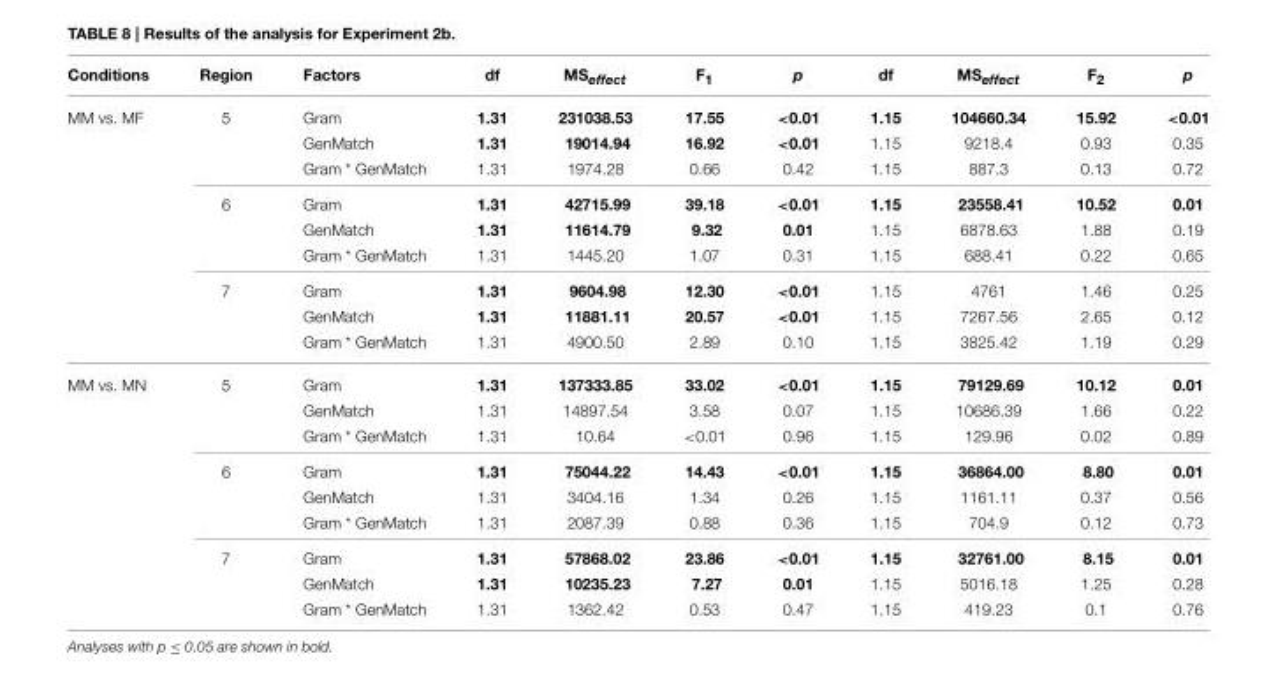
<table><thead><tr><td>Conditions</td><td>Region</td><td>Factors</td><td>df</td><td>MS<sub>effect</sub></td><td>F<sub>1</sub></td><td>p</td><td>df</td><td>MS<sub>effect</sub></td><td>F<sub>2</sub></td><td>p</td></tr></thead><tbody><tr><td rowspan="9">MM vs. MF</td><td>5</td><td>Gram</td><td>1.31</td><td>231038.53</td><td>17.55</td><td>&lt;0.01</td><td>1.15</td><td>104660.34</td><td>15.92</td><td>&lt;0.01</td></tr><tr><td></td><td>GenMatch</td><td>1.31</td><td>19014.94</td><td>16.92</td><td>&lt;0.01</td><td>1.15</td><td>9218.4</td><td>0.93</td><td>0.35</td></tr><tr><td></td><td>Gram * GenMatch</td><td>1.31</td><td>1974.28</td><td>0.66</td><td>0.42</td><td>1.15</td><td>887.3</td><td>0.13</td><td>0.72</td></tr><tr><td>6</td><td>Gram</td><td>1.31</td><td>42715.99</td><td>39.18</td><td>&lt;0.01</td><td>1.15</td><td>23558.41</td><td>10.52</td><td>0.01</td></tr><tr><td></td><td>GenMatch</td><td>1.31</td><td>11614.79</td><td>9.32</td><td>0.01</td><td>1.15</td><td>6878.63</td><td>1.88</td><td>0.19</td></tr><tr><td></td><td>Gram * GenMatch</td><td>1.31</td><td>1445.20</td><td>1.07</td><td>0.31</td><td>1.15</td><td>688.41</td><td>0.22</td><td>0.65</td></tr><tr><td>7</td><td>Gram</td><td>1.31</td><td>9604.98</td><td>12.30</td><td>&lt;0.01</td><td>1.15</td><td>4761</td><td>1.46</td><td>0.25</td></tr><tr><td></td><td>GenMatch</td><td>1.31</td><td>11881.11</td><td>20.57</td><td>&lt;0.01</td><td>1.15</td><td>7267.56</td><td>2.65</td><td>0.12</td></tr><tr><td></td><td>Gram * GenMatch</td><td>1.31</td><td>4900.50</td><td>2.89</td><td>0.10</td><td>1.15</td><td>3825.42</td><td>1.19</td><td>0.29</td></tr><tr><td rowspan="9">MM vs. MN</td><td>5</td><td>Gram</td><td>1.31</td><td>137333.85</td><td>33.02</td><td>&lt;0.01</td><td>1.15</td><td>79129.69</td><td>10.12</td><td>0.01</td></tr><tr><td></td><td>GenMatch</td><td>1.31</td><td>14897.54</td><td>3.58</td><td>0.07</td><td>1.15</td><td>10686.39</td><td>1.66</td><td>0.22</td></tr><tr><td></td><td>Gram * GenMatch</td><td>1.31</td><td>10.64</td><td>&lt;0.01</td><td>0.96</td><td>1.15</td><td>129.96</td><td>0.02</td><td>0.89</td></tr><tr><td>6</td><td>Gram</td><td>1.31</td><td>75044.22</td><td>14.43</td><td>&lt;0.01</td><td>1.15</td><td>36864.00</td><td>8.80</td><td>0.01</td></tr><tr><td></td><td>GenMatch</td><td>1.31</td><td>3404.16</td><td>1.34</td><td>0.26</td><td>1.15</td><td>1161.11</td><td>0.37</td><td>0.56</td></tr><tr><td></td><td>Gram * GenMatch</td><td>1.31</td><td>2087.39</td><td>0.88</td><td>0.36</td><td>1.15</td><td>704.9</td><td>0.12</td><td>0.73</td></tr><tr><td>7</td><td>Gram</td><td>1.31</td><td>57868.02</td><td>23.86</td><td>&lt;0.01</td><td>1.15</td><td>32761.00</td><td>8.15</td><td>0.01</td></tr><tr><td></td><td>GenMatch</td><td>1.31</td><td>10235.23</td><td>7.27</td><td>0.01</td><td>1.15</td><td>5016.18</td><td>1.25</td><td>0.28</td></tr><tr><td></td><td>Gram * GenMatch</td><td>1.31</td><td>1362.42</td><td>0.53</td><td>0.47</td><td>1.15</td><td>419.23</td><td>0.1</td><td>0.76</td></tr></tbody></table>